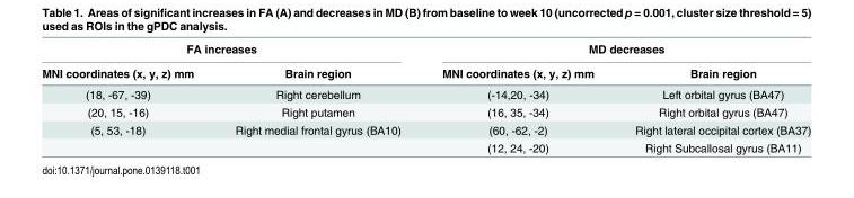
<table><thead><tr><td colspan="2">FA increases</td><td colspan="2">MD decreases</td></tr><tr><td>MNI coordinates (x, y, z) mm</td><td>Brain region</td><td>MNI coordinates (x, y, z) mm</td><td>Brain region</td></tr></thead><tbody><tr><td>(18, -67, -39)</td><td>Right cerebellum</td><td>(-14,20, -34)</td><td>Left orbital gyrus (BA47)</td></tr><tr><td>(20, 15, -16)</td><td>Right putamen</td><td>(16, 35, -34)</td><td>Right orbital gyrus (BA47)</td></tr><tr><td rowspan="2">(5, 53, -18)</td><td>Right medial frontal gyrus (BA10)</td><td>(60, -62, -2)</td><td>Right lateral occipital cortex (BA37)</td></tr><tr><td></td><td>(12, 24, -20)</td><td>Right Subcallosal gyrus (BA11)</td></tr></tbody></table>